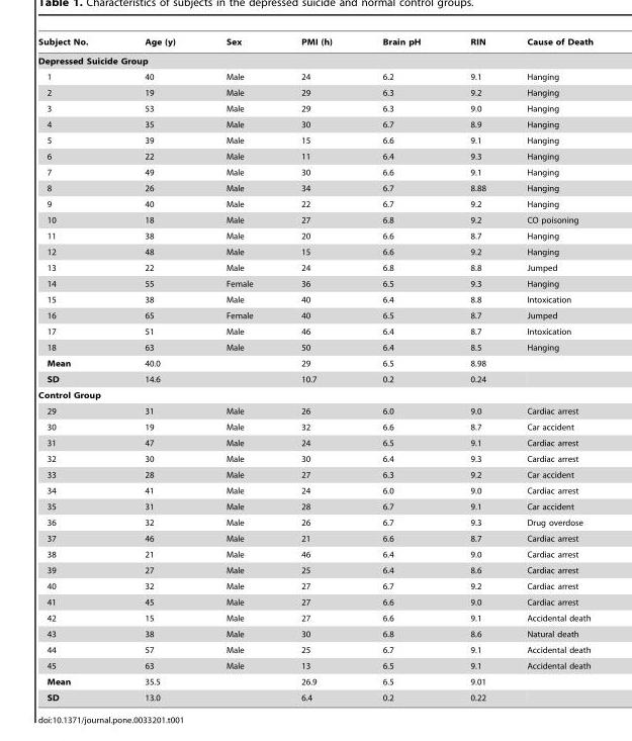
<table><thead><tr><td>Subject No.</td><td>Age (y)</td><td>Sex</td><td>PMI (h)</td><td>Brain pH</td><td>RIN</td><td>Cause of Death</td></tr></thead><tbody><tr><td colspan="7">Depressed Suicide Group</td></tr><tr><td>1</td><td>40</td><td>Male</td><td>24</td><td>6.2</td><td>9.1</td><td>Hanging</td></tr><tr><td>2</td><td>19</td><td>Male</td><td>29</td><td>6.3</td><td>9.2</td><td>Hanging</td></tr><tr><td>3</td><td>53</td><td>Male</td><td>29</td><td>6.3</td><td>9.0</td><td>Hanging</td></tr><tr><td>4</td><td>35</td><td>Male</td><td>30</td><td>6.7</td><td>8.9</td><td>Hanging</td></tr><tr><td>5</td><td>39</td><td>Male</td><td>15</td><td>6.6</td><td>9.1</td><td>Hanging</td></tr><tr><td>6</td><td>22</td><td>Male</td><td>11</td><td>6.4</td><td>9.3</td><td>Hanging</td></tr><tr><td>7</td><td>49</td><td>Male</td><td>30</td><td>6.6</td><td>9.1</td><td>Hanging</td></tr><tr><td>8</td><td>26</td><td>Male</td><td>34</td><td>6.7</td><td>8.88</td><td>Hanging</td></tr><tr><td>9</td><td>40</td><td>Male</td><td>22</td><td>6.7</td><td>9.2</td><td>Hanging</td></tr><tr><td>10</td><td>18</td><td>Male</td><td>27</td><td>6.8</td><td>9.2</td><td>CO poisoning</td></tr><tr><td>11</td><td>38</td><td>Male</td><td>20</td><td>6.6</td><td>8.7</td><td>Hanging</td></tr><tr><td>12</td><td>48</td><td>Male</td><td>15</td><td>6.6</td><td>9.2</td><td>Hanging</td></tr><tr><td>13</td><td>22</td><td>Male</td><td>24</td><td>6.8</td><td>8.8</td><td>Jumped</td></tr><tr><td>14</td><td>55</td><td>Female</td><td>36</td><td>6.5</td><td>9.3</td><td>Hanging</td></tr><tr><td>15</td><td>38</td><td>Male</td><td>40</td><td>6.4</td><td>8.8</td><td>Intoxication</td></tr><tr><td>16</td><td>65</td><td>Female</td><td>40</td><td>6.5</td><td>8.7</td><td>Jumped</td></tr><tr><td>17</td><td>51</td><td>Male</td><td>46</td><td>6.4</td><td>8.7</td><td>Intoxication</td></tr><tr><td>18</td><td>63</td><td>Male</td><td>50</td><td>6.4</td><td>8.5</td><td>Hanging</td></tr><tr><td>Mean</td><td>40.0</td><td></td><td>29</td><td>6.5</td><td>8.98</td><td></td></tr><tr><td>SD</td><td>14.6</td><td></td><td>10.7</td><td>0.2</td><td>0.24</td><td></td></tr><tr><td colspan="7">Control Group</td></tr><tr><td>29</td><td>31</td><td>Male</td><td>26</td><td>6.0</td><td>9.0</td><td>Cardiac arrest</td></tr><tr><td>30</td><td>19</td><td>Male</td><td>32</td><td>6.6</td><td>8.7</td><td>Car accident</td></tr><tr><td>31</td><td>47</td><td>Male</td><td>24</td><td>6.5</td><td>9.1</td><td>Cardiac arrest</td></tr><tr><td>32</td><td>30</td><td>Male</td><td>30</td><td>6.4</td><td>9.3</td><td>Cardiac arrest</td></tr><tr><td>33</td><td>28</td><td>Male</td><td>27</td><td>6.3</td><td>9.2</td><td>Car accident</td></tr><tr><td>34</td><td>41</td><td>Male</td><td>24</td><td>6.0</td><td>9.0</td><td>Cardiac arrest</td></tr><tr><td>35</td><td>31</td><td>Male</td><td>28</td><td>6.7</td><td>9.1</td><td>Car accident</td></tr><tr><td>36</td><td>32</td><td>Male</td><td>26</td><td>6.7</td><td>9.3</td><td>Drug overdose</td></tr><tr><td>37</td><td>46</td><td>Male</td><td>21</td><td>6.6</td><td>8.7</td><td>Cardiac arrest</td></tr><tr><td>38</td><td>21</td><td>Male</td><td>46</td><td>6.4</td><td>9.0</td><td>Cardiac arrest</td></tr><tr><td>39</td><td>27</td><td>Male</td><td>25</td><td>6.4</td><td>8.6</td><td>Cardiac arrest</td></tr><tr><td>40</td><td>32</td><td>Male</td><td>27</td><td>6.7</td><td>9.2</td><td>Cardiac arrest</td></tr><tr><td>41</td><td>45</td><td>Male</td><td>27</td><td>6.6</td><td>9.0</td><td>Cardiac arrest</td></tr><tr><td>42</td><td>15</td><td>Male</td><td>27</td><td>6.6</td><td>9.1</td><td>Accidental death</td></tr><tr><td>43</td><td>38</td><td>Male</td><td>30</td><td>6.8</td><td>8.6</td><td>Natural death</td></tr><tr><td>44</td><td>57</td><td>Male</td><td>25</td><td>6.7</td><td>9.1</td><td>Accidental death</td></tr><tr><td>45</td><td>63</td><td>Male</td><td>13</td><td>6.5</td><td>9.1</td><td>Accidental death</td></tr><tr><td>Mean</td><td>35.5</td><td></td><td>26.9</td><td>6.5</td><td>9.01</td><td></td></tr><tr><td>SD</td><td>13.0</td><td></td><td>6.4</td><td>0.2</td><td>0.22</td><td></td></tr></tbody></table>